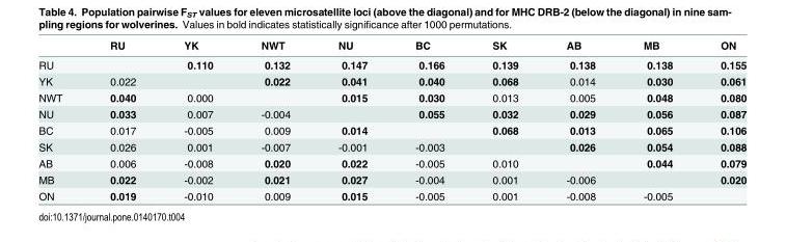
<table><thead><tr><td></td><td>RU</td><td>YK</td><td>NWT</td><td>NU</td><td>BC</td><td>SK</td><td>AB</td><td>MB</td><td>ON</td></tr></thead><tbody><tr><td>RU</td><td></td><td>0.110</td><td>0.132</td><td>0.147</td><td>0.166</td><td>0.139</td><td>0.138</td><td>0.138</td><td>0.155</td></tr><tr><td>YK</td><td>0.022</td><td></td><td>0.022</td><td>0.041</td><td>0.040</td><td>0.068</td><td>0.014</td><td>0.030</td><td>0.061</td></tr><tr><td>NWT</td><td>0.040</td><td>0.000</td><td></td><td>0.015</td><td>0.030</td><td>0.013</td><td>0.005</td><td>0.048</td><td>0.080</td></tr><tr><td>NU</td><td>0.033</td><td>0.007</td><td>-0.004</td><td></td><td>0.055</td><td>0.032</td><td>0.029</td><td>0.056</td><td>0.087</td></tr><tr><td>BC</td><td>0.017</td><td>-0.005</td><td>0.009</td><td>0.014</td><td></td><td>0.068</td><td>0.013</td><td>0.065</td><td>0.106</td></tr><tr><td>SK</td><td>0.026</td><td>0.001</td><td>-0.007</td><td>-0.001</td><td>-0.003</td><td></td><td>0.026</td><td>0.054</td><td>0.088</td></tr><tr><td>AB</td><td>0.006</td><td>-0.008</td><td>0.020</td><td>0.022</td><td>-0.005</td><td>0.010</td><td></td><td>0.044</td><td>0.079</td></tr><tr><td>MB</td><td>0.022</td><td>-0.002</td><td>0.021</td><td>0.027</td><td>-0.004</td><td>0.001</td><td>-0.006</td><td></td><td>0.020</td></tr><tr><td>ON</td><td>0.019</td><td>-0.010</td><td>0.009</td><td>0.015</td><td>-0.005</td><td>0.001</td><td>-0.008</td><td>-0.005</td><td></td></tr></tbody></table>